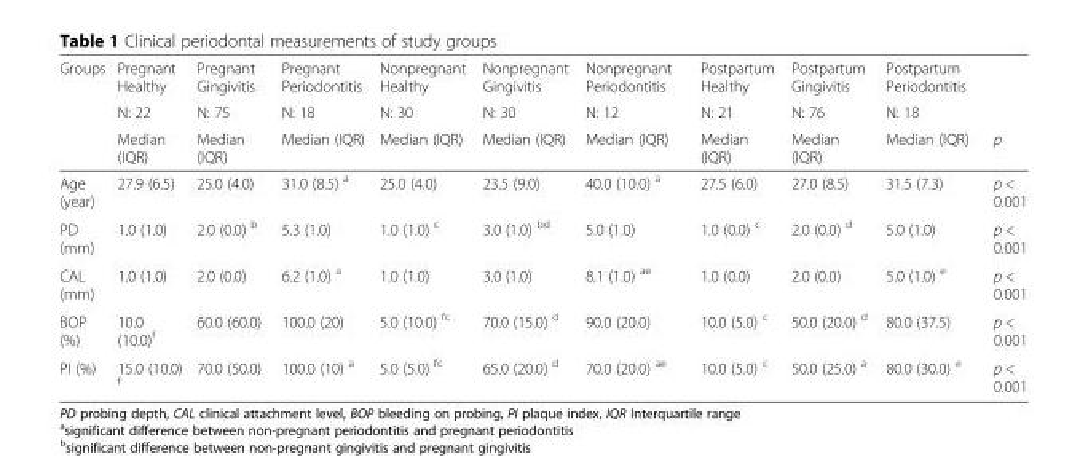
<table><thead><tr><td rowspan="3">Groups</td><td rowspan="3">Pregnant Healthy N: 22 Median (IQR)</td><td rowspan="3">Pregnant Gingivitis N: 75 Median (IQR)</td><td rowspan="3">Pregnant Periodontitis N: 18 Median (IQR)</td><td rowspan="3">Nonpregnant Healthy N: 30 Median (IQR)</td><td rowspan="3">Nonpregnant Gingivitis N: 30 Median (IQR)</td><td rowspan="3">Nonpregnant Periodontitis N: 12 Median (IQR)</td><td rowspan="3">Postpartum Healthy N: 21 Median (IQR)</td><td rowspan="3">Postpartum Gingivitis N: 76 Median (IQR)</td><td rowspan="3">Postpartum Periodontitis N: 18 Median (IQR)</td><td rowspan="3">p</td></tr><tr></tr><tr></tr></thead><tbody><tr><td>Age (year)</td><td>27.9 (6.5)</td><td>25.0 (4.0)</td><td>31.0 (8.5) <sup>a</sup></td><td>25.0 (4.0)</td><td>23.5 (9.0)</td><td>40.0 (10.0) <sup>a</sup></td><td>27.5 (6.0)</td><td>27.0 (8.5)</td><td>31.5 (7.3)</td><td>p &lt; 0.001</td></tr><tr><td>PD (mm)</td><td>1.0 (1.0)</td><td>2.0 (0.0) <sup>b</sup></td><td>5.3 (1.0)</td><td>1.0 (1.0) <sup>c</sup></td><td>3.0 (1.0) <sup>bd</sup></td><td>5.0 (1.0)</td><td>1.0 (0.0) <sup>c</sup></td><td>2.0 (0.0) <sup>d</sup></td><td>5.0 (1.0)</td><td>p &lt; 0.001</td></tr><tr><td>CAL (mm)</td><td>1.0 (1.0)</td><td>2.0 (0.0)</td><td>6.2 (1.0) <sup>a</sup></td><td>1.0 (1.0)</td><td>3.0 (1.0)</td><td>8.1 (1.0) <sup>ae</sup></td><td>1.0 (0.0)</td><td>2.0 (0.0)</td><td>5.0 (1.0) <sup>e</sup></td><td>p &lt; 0.001</td></tr><tr><td>BOP (%)</td><td>10.0 (10.0)<sup>f</sup></td><td>60.0 (60.0)</td><td>100.0 (20)</td><td>5.0 (10.0) <sup>fc</sup></td><td>70.0 (15.0) <sup>d</sup></td><td>90.0 (20.0)</td><td>10.0 (5.0) <sup>c</sup></td><td>50.0 (20.0) <sup>d</sup></td><td>80.0 (37.5)</td><td>p &lt; 0.001</td></tr><tr><td>PI (%)</td><td>15.0 (10.0) <sup>f</sup></td><td>70.0 (50.0)</td><td>100.0 (10) <sup>a</sup></td><td>5.0 (5.0) <sup>fc</sup></td><td>65.0 (20.0) <sup>d</sup></td><td>70.0 (20.0) <sup>ae</sup></td><td>10.0 (5.0) <sup>c</sup></td><td>50.0 (25.0) <sup>a</sup></td><td>80.0 (30.0) <sup>e</sup></td><td>p &lt; 0.001</td></tr></tbody></table>